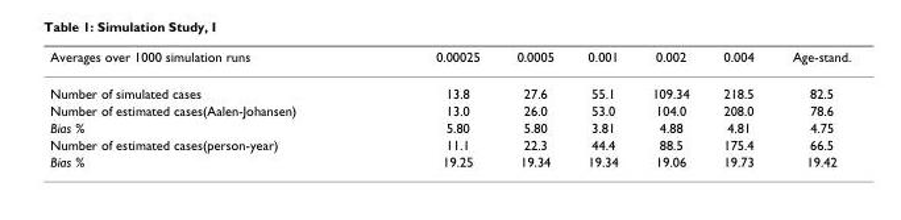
<table><thead><tr><td>Averages over 1000 simulation runs</td><td>0.00025</td><td>0.0005</td><td>0.001</td><td>0.002</td><td>0.004</td><td>Age-stand.</td></tr></thead><tbody><tr><td>Number of simulated cases</td><td>13.8</td><td>27.6</td><td>55.1</td><td>109.34</td><td>218.5</td><td>82.5</td></tr><tr><td>Number of estimated cases(Aalen-Johansen)</td><td>13.0</td><td>26.0</td><td>53.0</td><td>104.0</td><td>208.0</td><td>78.6</td></tr><tr><td>Bias %</td><td>5.80</td><td>5.80</td><td>3.81</td><td>4.88</td><td>4.81</td><td>4.75</td></tr><tr><td>Number of estimated cases(person-year)</td><td>11.1</td><td>22.3</td><td>44.4</td><td>88.5</td><td>175.4</td><td>66.5</td></tr><tr><td>Bias %</td><td>19.25</td><td>19.34</td><td>19.34</td><td>19.06</td><td>19.73</td><td>19.42</td></tr></tbody></table>